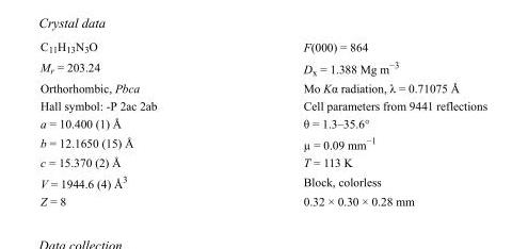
<table><tbody><tr><td>C<sub>11</sub>H<sub>13</sub>N<sub>3</sub>O</td><td>F(000) = 864</td></tr><tr><td>M<sub>r</sub> = 203.24</td><td>D<sub>x</sub> = 1.388 Mg m<sup>−3</sup></td></tr><tr><td>Orthorhombic, Pbca</td><td>Mo Kα radiation, λ = 0.71075 Å</td></tr><tr><td>Hall symbol: -P 2ac 2ab</td><td>Cell parameters from 9441 reflections</td></tr><tr><td>a = 10.400 (1) Å</td><td>θ = 1.3–35.6°</td></tr><tr><td>b = 12.1650 (15) Å</td><td>µ = 0.09 mm<sup>−1</sup></td></tr><tr><td>c = 15.370 (2) Å</td><td>T = 113 K</td></tr><tr><td>V = 1944.6 (4) Å<sup>3</sup></td><td>Block, colorless</td></tr><tr><td>Z = 8</td><td>0.32 × 0.30 × 0.28 mm</td></tr></tbody></table>